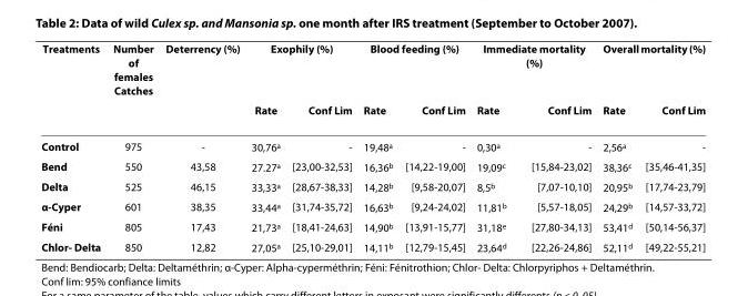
<table><thead><tr><td rowspan="2">Treatments</td><td rowspan="2">Number of females Catches</td><td rowspan="2">Deterrency (%)</td><td colspan="2">Exophily (%)</td><td colspan="2">Blood feeding (%)</td><td colspan="2">Immediate mortality (%)</td><td colspan="2">Overall mortality (%)</td></tr><tr><td>Rate</td><td>Conf Lim</td><td>Rate</td><td>Conf Lim</td><td>Rate</td><td>Conf Lim</td><td>Rate</td><td>Conf Lim</td></tr></thead><tbody><tr><td>Control</td><td>975</td><td>-</td><td>30,76<sup>a</sup></td><td>-</td><td>19,48<sup>a</sup></td><td>-</td><td>0,30<sup>a</sup></td><td>-</td><td>2,56<sup>a</sup></td><td>-</td></tr><tr><td>Bend</td><td>550</td><td>43,58</td><td>27.27<sup>a</sup></td><td>[23,00-32,53]</td><td>16,36<sup>b</sup></td><td>[14,22-19,00]</td><td>19,09<sup>c</sup></td><td>[15,84-23,02]</td><td>38,36<sup>c</sup></td><td>[35,46-41,35]</td></tr><tr><td>Delta</td><td>525</td><td>46,15</td><td>33,33<sup>a</sup></td><td>[28,67-38,33]</td><td>14,28<sup>b</sup></td><td>[9,58-20,07]</td><td>8,5<sup>b</sup></td><td>[7,07-10,10]</td><td>20,95<sup>b</sup></td><td>[17,74-23,79]</td></tr><tr><td>α-Cyper</td><td>601</td><td>38,35</td><td>33,44<sup>a</sup></td><td>[31,74-35,72]</td><td>16,63<sup>b</sup></td><td>[9,24-24,02]</td><td>11,81<sup>b</sup></td><td>[5,57-18,05]</td><td>24,29<sup>b</sup></td><td>[14,57-33,72]</td></tr><tr><td>Féni</td><td>805</td><td>17,43</td><td>21,73<sup>a</sup></td><td>[18,41-24,63]</td><td>14,90<sup>b</sup></td><td>[13,91-15,77]</td><td>31,18<sup>e</sup></td><td>[27,80-34,13]</td><td>53,41<sup>d</sup></td><td>[50,14-56,37]</td></tr><tr><td>Chlor- Delta</td><td>850</td><td>12,82</td><td>27,05<sup>a</sup></td><td>[25,10-29,01]</td><td>14,11<sup>b</sup></td><td>[12,79-15,45]</td><td>23,64<sup>d</sup></td><td>[22,26-24,86]</td><td>52,11<sup>d</sup></td><td>[49,22-55,21]</td></tr></tbody></table>